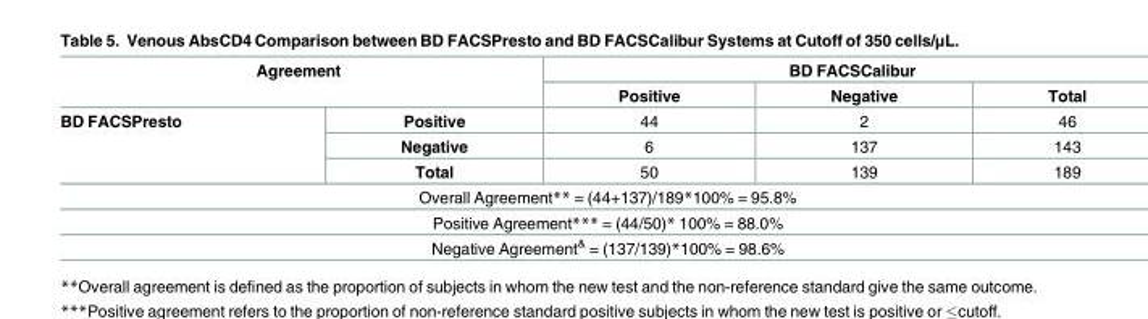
<table><tbody><tr><td rowspan="2" colspan="2">Agreement</td><td colspan="3">BD FACSCalibur</td></tr><tr><td>Positive</td><td>Negative</td><td>Total</td></tr><tr><td rowspan="3">BD FACSPresto</td><td>Positive</td><td>44</td><td>2</td><td>46</td></tr><tr><td>Negative</td><td>6</td><td>137</td><td>143</td></tr><tr><td>Total</td><td>50</td><td>139</td><td>189</td></tr><tr><td colspan="5">Overall Agreement** = (44+137)/189*100% = 95.8%</td></tr><tr><td colspan="5">Positive Agreement*** = (44/50)* 100% = 88.0%</td></tr><tr><td colspan="5">Negative Agreement<sup>&amp;</sup> = (137/139)*100% = 98.6%</td></tr></tbody></table>